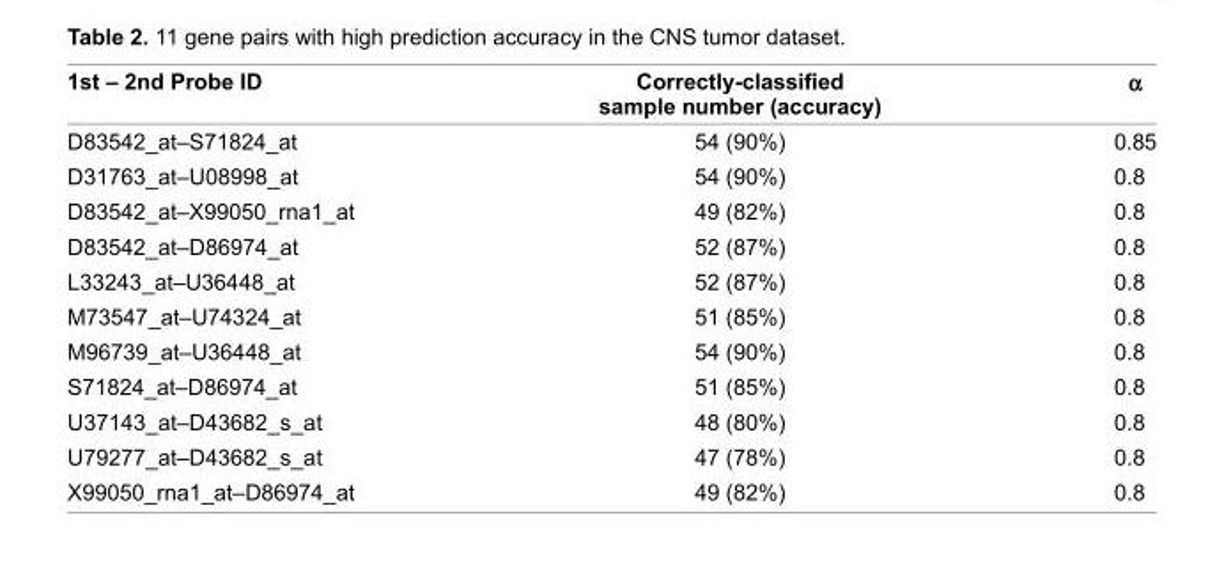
<table><thead><tr><td>1st – 2nd Probe ID</td><td>Correctly-classifi ed sample number (accuracy)</td><td>α</td></tr></thead><tbody><tr><td>D83542_at–S71824_at</td><td>54 (90%)</td><td>0.85</td></tr><tr><td>D31763_at–U08998_at</td><td>54 (90%)</td><td>0.8</td></tr><tr><td>D83542_at–X99050_rna1_at</td><td>49 (82%)</td><td>0.8</td></tr><tr><td>D83542_at–D86974_at</td><td>52 (87%)</td><td>0.8</td></tr><tr><td>L33243_at–U36448_at</td><td>52 (87%)</td><td>0.8</td></tr><tr><td>M73547_at–U74324_at</td><td>51 (85%)</td><td>0.8</td></tr><tr><td>M96739_at–U36448_at</td><td>54 (90%)</td><td>0.8</td></tr><tr><td>S71824_at–D86974_at</td><td>51 (85%)</td><td>0.8</td></tr><tr><td>U37143_at–D43682_s_at</td><td>48 (80%)</td><td>0.8</td></tr><tr><td>U79277_at–D43682_s_at</td><td>47 (78%)</td><td>0.8</td></tr><tr><td>X99050_rna1_at–D86974_at</td><td>49 (82%)</td><td>0.8</td></tr></tbody></table>